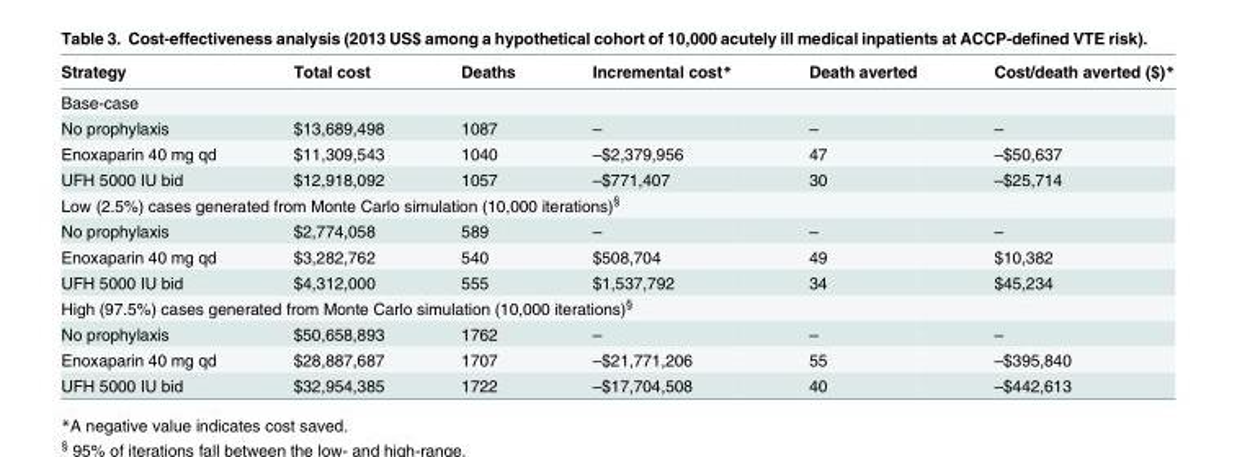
<table><thead><tr><td>Strategy</td><td>Total cost</td><td>Deaths</td><td>Incremental cost*</td><td>Death averted</td><td>Cost/death averted ($)*</td></tr></thead><tbody><tr><td colspan="6">Base-case</td></tr><tr><td>No prophylaxis</td><td>$13,689,498</td><td>1087</td><td>–</td><td>–</td><td>–</td></tr><tr><td>Enoxaparin 40 mg qd</td><td>$11,309,543</td><td>1040</td><td>–$2,379,956</td><td>47</td><td>–$50,637</td></tr><tr><td>UFH 5000 IU bid</td><td>$12,918,092</td><td>1057</td><td>–$771,407</td><td>30</td><td>–$25,714</td></tr><tr><td colspan="6">Low (2.5%) cases generated from Monte Carlo simulation (10,000 iterations)<sup>§</sup></td></tr><tr><td>No prophylaxis</td><td>$2,774,058</td><td>589</td><td>–</td><td>–</td><td>–</td></tr><tr><td>Enoxaparin 40 mg qd</td><td>$3,282,762</td><td>540</td><td>$508,704</td><td>49</td><td>$10,382</td></tr><tr><td>UFH 5000 IU bid</td><td>$4,312,000</td><td>555</td><td>$1,537,792</td><td>34</td><td>$45,234</td></tr><tr><td colspan="6">High (97.5%) cases generated from Monte Carlo simulation (10,000 iterations)<sup>§</sup></td></tr><tr><td>No prophylaxis</td><td>$50,658,893</td><td>1762</td><td>–</td><td>–</td><td>–</td></tr><tr><td>Enoxaparin 40 mg qd</td><td>$28,887,687</td><td>1707</td><td>–$21,771,206</td><td>55</td><td>–$395,840</td></tr><tr><td>UFH 5000 IU bid</td><td>$32,954,385</td><td>1722</td><td>–$17,704,508</td><td>40</td><td>–$442,613</td></tr></tbody></table>